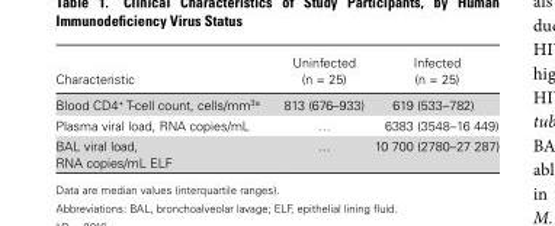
<table><thead><tr><td>Characteristic</td><td>Uninfected (n = 25)</td><td>Infected (n = 25)</td></tr></thead><tbody><tr><td>Blood CD4<sup>+</sup> T-cell count, cells/mm<sup>3a</sup></td><td>813 (676–933)</td><td>619 (533–782)</td></tr><tr><td>Plasma viral load, RNA copies/mL</td><td>…</td><td>6383 (3548–16 449)</td></tr><tr><td>BAL viral load, RNA copies/mL ELF</td><td>…</td><td>10 700 (2780–27 287)</td></tr></tbody></table>